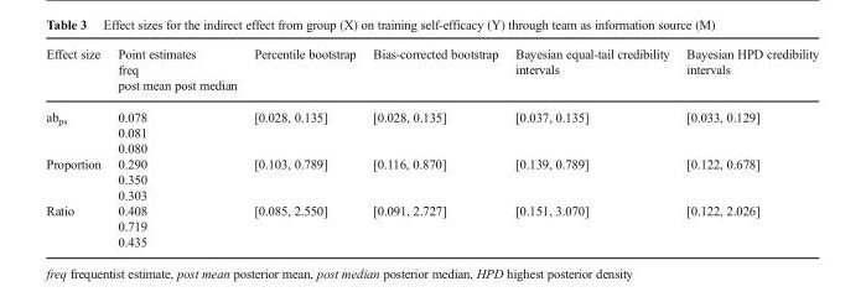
<table><thead><tr><td>Effect size</td><td>Point estimates freq post mean post median</td><td>Percentile bootstrap</td><td>Bias-corrected bootstrap</td><td>Bayesian equal-tail credibility intervals</td><td>Bayesian HPD credibility intervals</td></tr></thead><tbody><tr><td>ab<sub>ps</sub></td><td>0.078 0.081 0.080</td><td>[0.028, 0.135]</td><td>[0.028, 0.135]</td><td>[0.037, 0.135]</td><td>[0.033, 0.129]</td></tr><tr><td>Proportion</td><td>0.290 0.350 0.303</td><td>[0.103, 0.789]</td><td>[0.116, 0.870]</td><td>[0.139, 0.789]</td><td>[0.122, 0.678]</td></tr><tr><td>Ratio</td><td>0.408 0.719 0.435</td><td>[0.085, 2.550]</td><td>[0.091, 2.727]</td><td>[0.151, 3.070]</td><td>[0.122, 2.026]</td></tr></tbody></table>